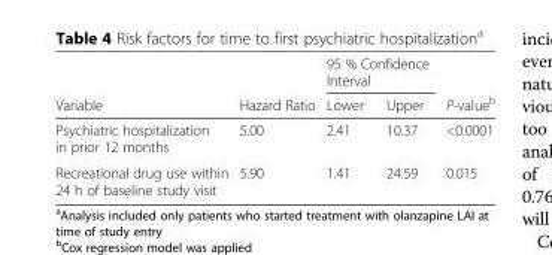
<table><thead><tr><td rowspan="2">Variable</td><td rowspan="2">Hazard Ratio</td><td colspan="2">95 % Confidence Interval</td><td rowspan="2">P-value<sup>b</sup></td></tr><tr><td>Lower</td><td>Upper</td></tr></thead><tbody><tr><td>Psychiatric hospitalization in prior 12 months</td><td>5.00</td><td>2.41</td><td>10.37</td><td>&lt;0.0001</td></tr><tr><td>Recreational drug use within 24 h of baseline study visit</td><td>5.90</td><td>1.41</td><td>24.59</td><td>0.015</td></tr></tbody></table>